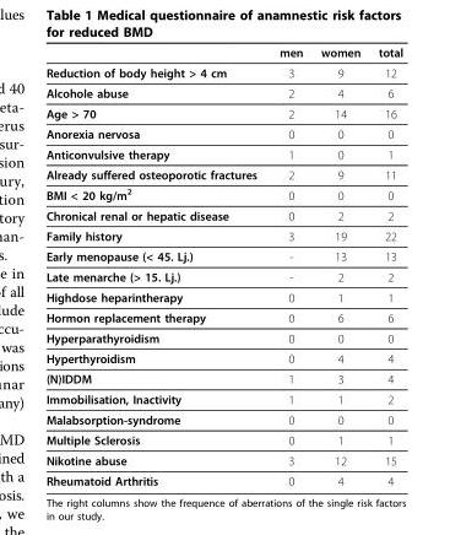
<table><thead><tr><td></td><td>men</td><td>women</td><td>total</td></tr></thead><tbody><tr><td>Reduction of body height &gt; 4 cm</td><td>3</td><td>9</td><td>12</td></tr><tr><td>Alcohole abuse</td><td>2</td><td>4</td><td>6</td></tr><tr><td>Age &gt; 70</td><td>2</td><td>14</td><td>16</td></tr><tr><td>Anorexia nervosa</td><td>0</td><td>0</td><td>0</td></tr><tr><td>Anticonvulsive therapy</td><td>1</td><td>0</td><td>1</td></tr><tr><td>Already suffered osteoporotic fractures</td><td>2</td><td>9</td><td>11</td></tr><tr><td>BMI &lt; 20 kg/m<sup>2</sup></td><td>0</td><td>0</td><td>0</td></tr><tr><td>Chronical renal or hepatic disease</td><td>0</td><td>2</td><td>2</td></tr><tr><td>Family history</td><td>3</td><td>19</td><td>22</td></tr><tr><td>Early menopause (&lt; 45. Lj.)</td><td>-</td><td>13</td><td>13</td></tr><tr><td>Late menarche (&gt; 15. Lj.)</td><td>-</td><td>2</td><td>2</td></tr><tr><td>Highdose heparintherapy</td><td>0</td><td>1</td><td>1</td></tr><tr><td>Hormon replacement therapy</td><td>0</td><td>6</td><td>6</td></tr><tr><td>Hyperparathyroidism</td><td>0</td><td>0</td><td>0</td></tr><tr><td>Hyperthyroidism</td><td>0</td><td>4</td><td>4</td></tr><tr><td>(N)IDDM</td><td>1</td><td>3</td><td>4</td></tr><tr><td>Immobilisation, Inactivity</td><td>1</td><td>1</td><td>2</td></tr><tr><td>Malabsorption-syndrome</td><td>0</td><td>0</td><td>0</td></tr><tr><td>Multiple Sclerosis</td><td>0</td><td>1</td><td>1</td></tr><tr><td>Nikotine abuse</td><td>3</td><td>12</td><td>15</td></tr><tr><td>Rheumatoid Arthritis</td><td>0</td><td>4</td><td>4</td></tr></tbody></table>